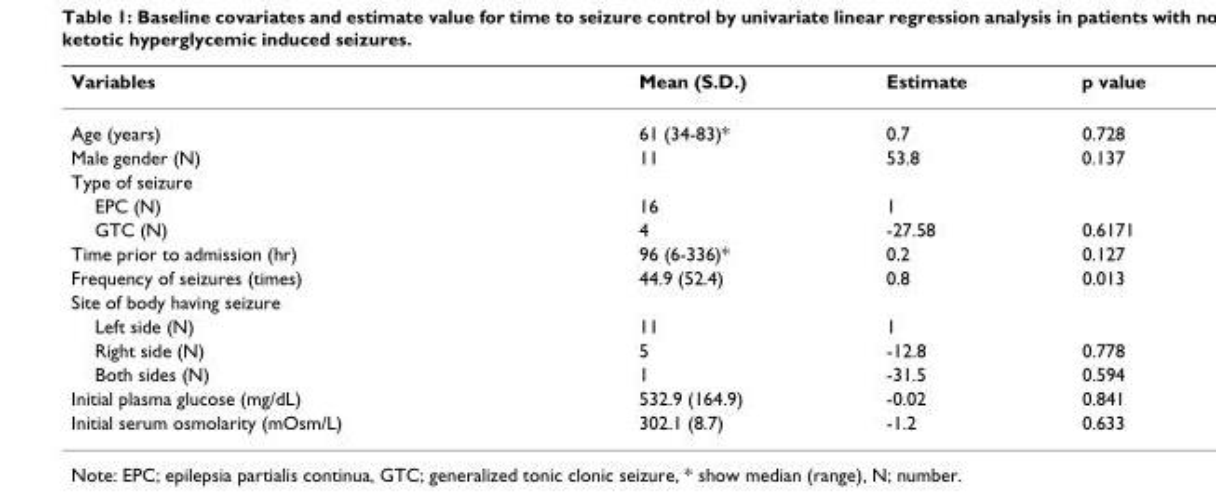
<table><thead><tr><td>Variables</td><td>Mean (S.D.)</td><td>Estimate</td><td>p value</td></tr></thead><tbody><tr><td>Age (years)</td><td>61 (34-83)*</td><td>0.7</td><td>0.728</td></tr><tr><td>Male gender (N)</td><td>11</td><td>53.8</td><td>0.137</td></tr><tr><td colspan="4">Type of seizure</td></tr><tr><td>EPC (N)</td><td>16</td><td>1</td><td></td></tr><tr><td>GTC (N)</td><td>4</td><td>-27.58</td><td>0.6171</td></tr><tr><td>Time prior to admission (hr)</td><td>96 (6-336)*</td><td>0.2</td><td>0.127</td></tr><tr><td>Frequency of seizures (times)</td><td>44.9 (52.4)</td><td>0.8</td><td>0.013</td></tr><tr><td colspan="4">Site of body having seizure</td></tr><tr><td>Left side (N)</td><td>11</td><td>1</td><td></td></tr><tr><td>Right side (N)</td><td>5</td><td>-12.8</td><td>0.778</td></tr><tr><td>Both sides (N)</td><td>1</td><td>-31.5</td><td>0.594</td></tr><tr><td>Initial plasma glucose (mg/dL)</td><td>532.9 (164.9)</td><td>-0.02</td><td>0.841</td></tr><tr><td>Initial serum osmolarity (mOsm/L)</td><td>302.1 (8.7)</td><td>-1.2</td><td>0.633</td></tr></tbody></table>